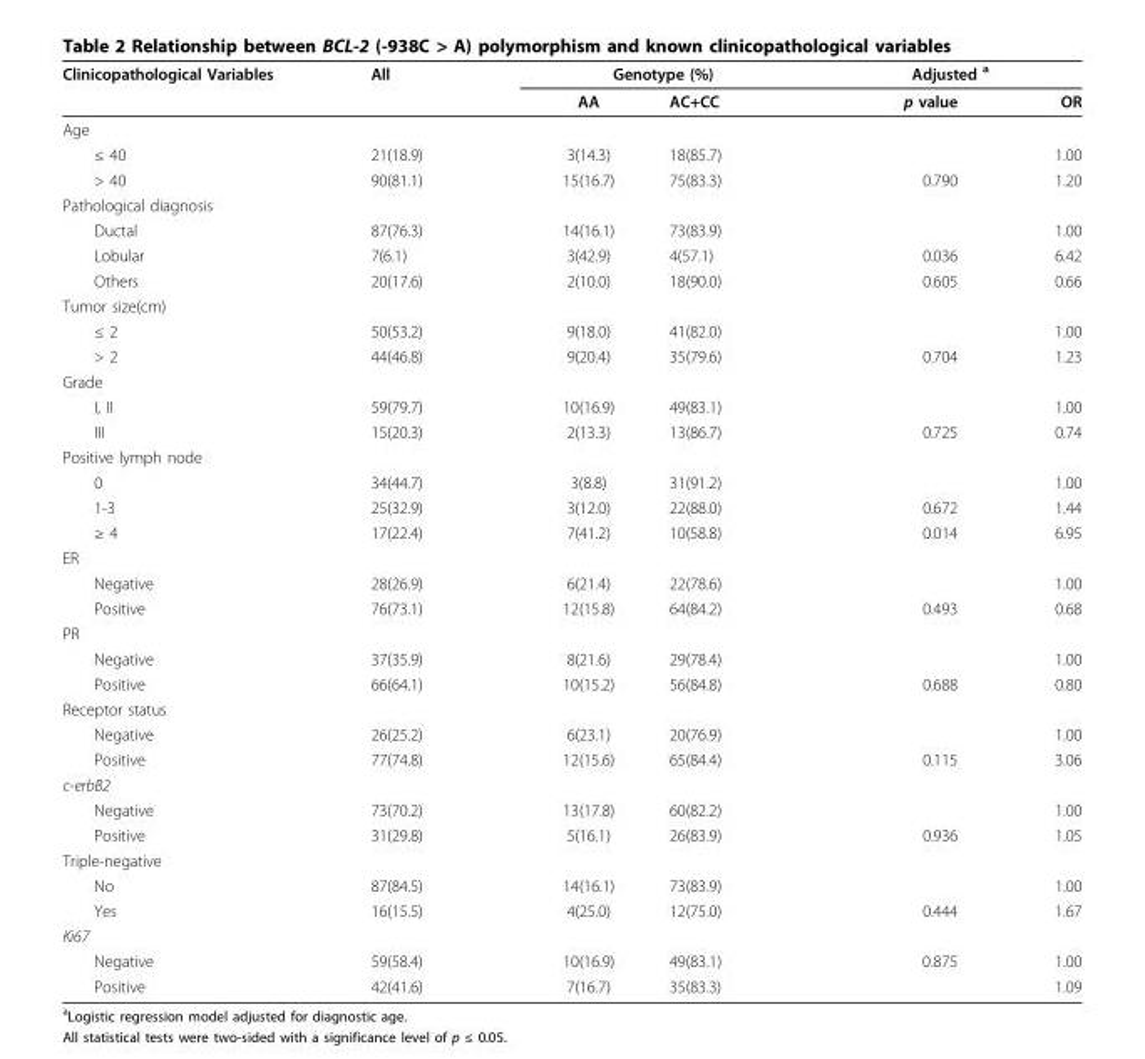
<table><thead><tr><td rowspan="2">Clinicopathological Variables</td><td rowspan="2">All</td><td colspan="2">Genotype (%)</td><td colspan="2">Adjusted <sup>a</sup></td></tr><tr><td>AA</td><td>AC+CC</td><td>p value</td><td>OR</td></tr></thead><tbody><tr><td colspan="6">Age</td></tr><tr><td>≤ 40</td><td>21(18.9)</td><td>3(14.3)</td><td>18(85.7)</td><td></td><td>1.00</td></tr><tr><td>&gt; 40</td><td>90(81.1)</td><td>15(16.7)</td><td>75(83.3)</td><td>0.790</td><td>1.20</td></tr><tr><td colspan="6">Pathological diagnosis</td></tr><tr><td>Ductal</td><td>87(76.3)</td><td>14(16.1)</td><td>73(83.9)</td><td></td><td>1.00</td></tr><tr><td>Lobular</td><td>7(6.1)</td><td>3(42.9)</td><td>4(57.1)</td><td>0.036</td><td>6.42</td></tr><tr><td>Others</td><td>20(17.6)</td><td>2(10.0)</td><td>18(90.0)</td><td>0.605</td><td>0.66</td></tr><tr><td colspan="6">Tumor size(cm)</td></tr><tr><td>≤ 2</td><td>50(53.2)</td><td>9(18.0)</td><td>41(82.0)</td><td></td><td>1.00</td></tr><tr><td>&gt; 2</td><td>44(46.8)</td><td>9(20.4)</td><td>35(79.6)</td><td>0.704</td><td>1.23</td></tr><tr><td colspan="6">Grade</td></tr><tr><td>I, II</td><td>59(79.7)</td><td>10(16.9)</td><td>49(83.1)</td><td></td><td>1.00</td></tr><tr><td>III</td><td>15(20.3)</td><td>2(13.3)</td><td>13(86.7)</td><td>0.725</td><td>0.74</td></tr><tr><td colspan="6">Positive lymph node</td></tr><tr><td>0</td><td>34(44.7)</td><td>3(8.8)</td><td>31(91.2)</td><td></td><td>1.00</td></tr><tr><td>1-3</td><td>25(32.9)</td><td>3(12.0)</td><td>22(88.0)</td><td>0.672</td><td>1.44</td></tr><tr><td>≥ 4</td><td>17(22.4)</td><td>7(41.2)</td><td>10(58.8)</td><td>0.014</td><td>6.95</td></tr><tr><td colspan="6">ER</td></tr><tr><td>Negative</td><td>28(26.9)</td><td>6(21.4)</td><td>22(78.6)</td><td></td><td>1.00</td></tr><tr><td>Positive</td><td>76(73.1)</td><td>12(15.8)</td><td>64(84.2)</td><td>0.493</td><td>0.68</td></tr><tr><td colspan="6">PR</td></tr><tr><td>Negative</td><td>37(35.9)</td><td>8(21.6)</td><td>29(78.4)</td><td></td><td>1.00</td></tr><tr><td>Positive</td><td>66(64.1)</td><td>10(15.2)</td><td>56(84.8)</td><td>0.688</td><td>0.80</td></tr><tr><td colspan="6">Receptor status</td></tr><tr><td>Negative</td><td>26(25.2)</td><td>6(23.1)</td><td>20(76.9)</td><td></td><td>1.00</td></tr><tr><td>Positive</td><td>77(74.8)</td><td>12(15.6)</td><td>65(84.4)</td><td>0.115</td><td>3.06</td></tr><tr><td colspan="6">c-erbB2</td></tr><tr><td>Negative</td><td>73(70.2)</td><td>13(17.8)</td><td>60(82.2)</td><td></td><td>1.00</td></tr><tr><td>Positive</td><td>31(29.8)</td><td>5(16.1)</td><td>26(83.9)</td><td>0.936</td><td>1.05</td></tr><tr><td colspan="6">Triple-negative</td></tr><tr><td>No</td><td>87(84.5)</td><td>14(16.1)</td><td>73(83.9)</td><td></td><td>1.00</td></tr><tr><td>Yes</td><td>16(15.5)</td><td>4(25.0)</td><td>12(75.0)</td><td>0.444</td><td>1.67</td></tr><tr><td colspan="6">Ki67</td></tr><tr><td>Negative</td><td>59(58.4)</td><td>10(16.9)</td><td>49(83.1)</td><td>0.875</td><td>1.00</td></tr><tr><td>Positive</td><td>42(41.6)</td><td>7(16.7)</td><td>35(83.3)</td><td></td><td>1.09</td></tr></tbody></table>